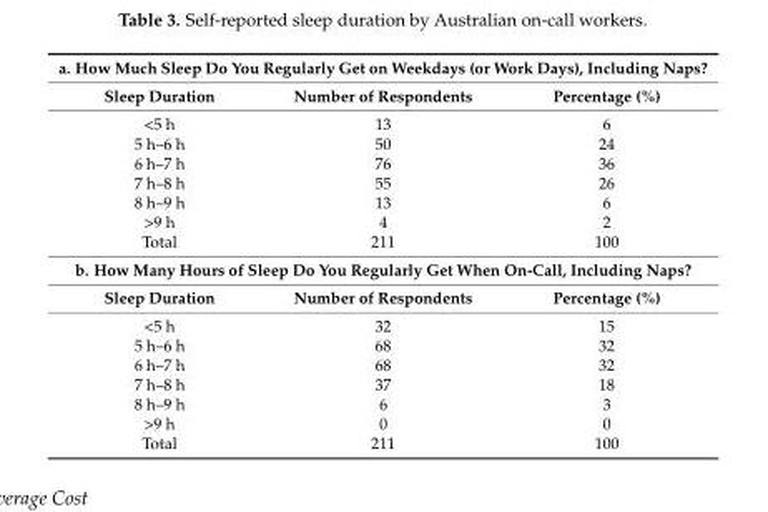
<table><tbody><tr><td colspan="3">a. How Much Sleep Do You Regularly Get on Weekdays (or Work Days), Including Naps?</td></tr><tr><td>Sleep Duration</td><td>Number of Respondents</td><td>Percentage (%)</td></tr><tr><td>&lt;5 h</td><td>13</td><td>6</td></tr><tr><td>5 h–6 h</td><td>50</td><td>24</td></tr><tr><td>6 h–7 h</td><td>76</td><td>36</td></tr><tr><td>7 h–8 h</td><td>55</td><td>26</td></tr><tr><td>8 h–9 h</td><td>13</td><td>6</td></tr><tr><td>&gt;9 h</td><td>4</td><td>2</td></tr><tr><td>Total</td><td>211</td><td>100</td></tr><tr><td colspan="3">b. How Many Hours of Sleep Do You Regularly Get When On-Call, Including Naps?</td></tr><tr><td>Sleep Duration</td><td>Number of Respondents</td><td>Percentage (%)</td></tr><tr><td>&lt;5 h</td><td>32</td><td>15</td></tr><tr><td>5 h–6 h</td><td>68</td><td>32</td></tr><tr><td>6 h–7 h</td><td>68</td><td>32</td></tr><tr><td>7 h–8 h</td><td>37</td><td>18</td></tr><tr><td>8 h–9 h</td><td>6</td><td>3</td></tr><tr><td>&gt;9 h</td><td>0</td><td>0</td></tr><tr><td>Total</td><td>211</td><td>100</td></tr></tbody></table>